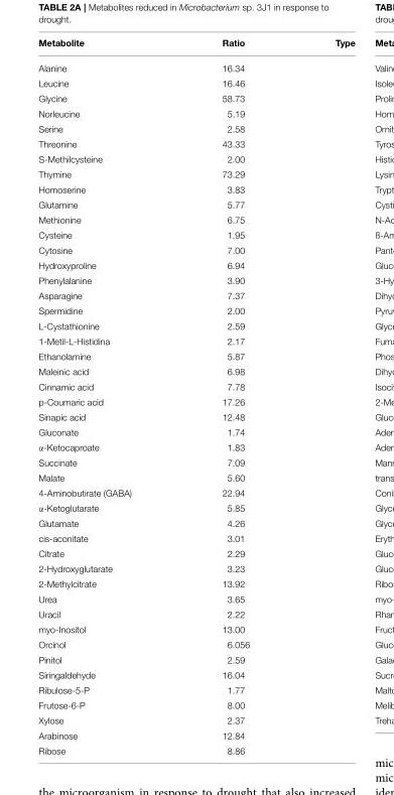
<table><thead><tr><td>Metabolite</td><td>Ratio</td><td>Type</td></tr></thead><tbody><tr><td>Alanine</td><td>16.34</td><td></td></tr><tr><td>Leucine</td><td>16.46</td><td></td></tr><tr><td>Glycine</td><td>58.73</td><td></td></tr><tr><td>Norleucine</td><td>5.19</td><td></td></tr><tr><td>Serine</td><td>2.58</td><td></td></tr><tr><td>Threonine</td><td>43.33</td><td></td></tr><tr><td>S-Methilcysteine</td><td>2.00</td><td></td></tr><tr><td>Thymine</td><td>73.29</td><td></td></tr><tr><td>Homoserine</td><td>3.83</td><td></td></tr><tr><td>Glutamine</td><td>5.77</td><td></td></tr><tr><td>Methionine</td><td>6.75</td><td></td></tr><tr><td>Cysteine</td><td>1.95</td><td></td></tr><tr><td>Cytosine</td><td>7.00</td><td></td></tr><tr><td>Hydroxyproline</td><td>6.94</td><td></td></tr><tr><td>Phenylalanine</td><td>3.90</td><td></td></tr><tr><td>Asparagine</td><td>7.37</td><td></td></tr><tr><td>Spermidine</td><td>2.00</td><td></td></tr><tr><td>L-Cystathionine</td><td>2.59</td><td></td></tr><tr><td>1-Metil-L-Histidina</td><td>2.17</td><td></td></tr><tr><td>Ethanolamine</td><td>5.87</td><td></td></tr><tr><td>Maleinic acid</td><td>6.98</td><td></td></tr><tr><td>Cinnamic acid</td><td>7.78</td><td></td></tr><tr><td>p-Coumaric acid</td><td>17.26</td><td></td></tr><tr><td>Sinapic acid</td><td>12.48</td><td></td></tr><tr><td>Gluconate</td><td>1.74</td><td></td></tr><tr><td>α-Ketocaproate</td><td>1.83</td><td></td></tr><tr><td>Succinate</td><td>7.09</td><td></td></tr><tr><td>Malate</td><td>5.60</td><td></td></tr><tr><td>4-Aminobutirate (GABA)</td><td>22.94</td><td></td></tr><tr><td>α-Ketoglutarate</td><td>5.85</td><td></td></tr><tr><td>Glutamate</td><td>4.26</td><td></td></tr><tr><td>cis-aconitate</td><td>3.01</td><td></td></tr><tr><td>Citrate</td><td>2.29</td><td></td></tr><tr><td>2-Hydroxyglutarate</td><td>3.23</td><td></td></tr><tr><td>2-Methylcitrate</td><td>13.92</td><td></td></tr><tr><td>Urea</td><td>3.65</td><td></td></tr><tr><td>Uracil</td><td>2.22</td><td></td></tr><tr><td>myo-Inositol</td><td>13.00</td><td></td></tr><tr><td>Orcinol</td><td>6.056</td><td></td></tr><tr><td>Pinitol</td><td>2.59</td><td></td></tr><tr><td>Siringaldehyde</td><td>16.04</td><td></td></tr><tr><td>Ribulose-5-P</td><td>1.77</td><td></td></tr><tr><td>Frutose-6-P</td><td>8.00</td><td></td></tr><tr><td>Xylose</td><td>2.37</td><td></td></tr><tr><td>Arabinose</td><td>12.84</td><td></td></tr><tr><td>Ribose</td><td>8.86</td><td></td></tr></tbody></table>